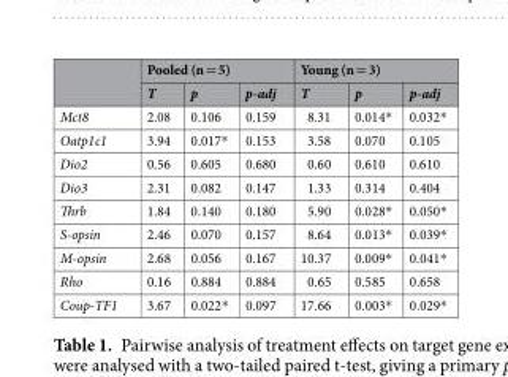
<table><thead><tr><td rowspan="2"></td><td colspan="3">Pooled (n = 5)</td><td colspan="3">Young (n = 3)</td></tr><tr><td>T</td><td>p</td><td>p-adj</td><td>T</td><td>p</td><td>p-adj</td></tr></thead><tbody><tr><td>Mct8</td><td>2.08</td><td>0.106</td><td>0.159</td><td>8.31</td><td>0.014*</td><td>0.032*</td></tr><tr><td>Oatp1c1</td><td>3.94</td><td>0.017*</td><td>0.153</td><td>3.58</td><td>0.070</td><td>0.105</td></tr><tr><td>Dio2</td><td>0.56</td><td>0.605</td><td>0.680</td><td>0.60</td><td>0.610</td><td>0.610</td></tr><tr><td>Dio3</td><td>2.31</td><td>0.082</td><td>0.147</td><td>1.33</td><td>0.314</td><td>0.404</td></tr><tr><td>Thrb</td><td>1.84</td><td>0.140</td><td>0.180</td><td>5.90</td><td>0.028*</td><td>0.050*</td></tr><tr><td>S-opsin</td><td>2.46</td><td>0.070</td><td>0.157</td><td>8.64</td><td>0.013*</td><td>0.039*</td></tr><tr><td>M-opsin</td><td>2.68</td><td>0.056</td><td>0.167</td><td>10.37</td><td>0.009*</td><td>0.041*</td></tr><tr><td>Rho</td><td>0.16</td><td>0.884</td><td>0.884</td><td>0.65</td><td>0.585</td><td>0.658</td></tr><tr><td>Coup-TF1</td><td>3.67</td><td>0.022*</td><td>0.097</td><td>17.66</td><td>0.003*</td><td>0.029*</td></tr></tbody></table>